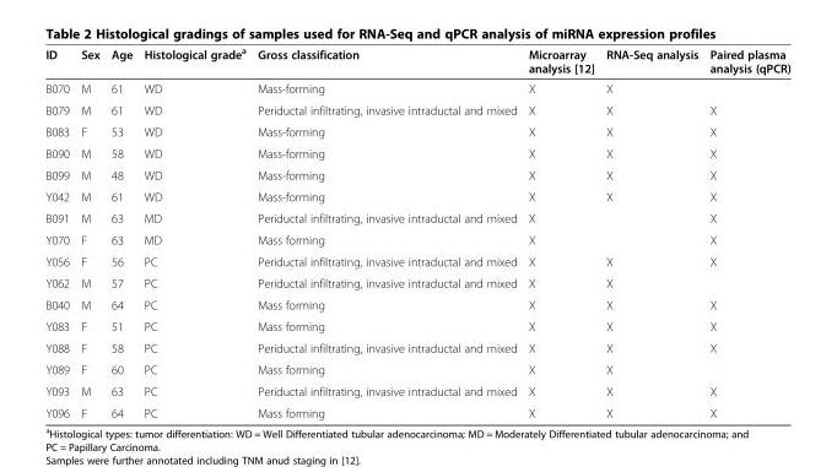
<table><thead><tr><td>ID</td><td>Sex</td><td>Age</td><td>Histological grade<sup>a</sup></td><td>Gross classification</td><td>Microarray analysis [12]</td><td>RNA-Seq analysis</td><td>Paired plasma analysis (qPCR)</td></tr></thead><tbody><tr><td>B070</td><td>M</td><td>61</td><td>WD</td><td>Mass-forming</td><td>X</td><td>X</td><td></td></tr><tr><td>B079</td><td>M</td><td>61</td><td>WD</td><td>Periductal infiltrating, invasive intraductal and mixed</td><td>X</td><td>X</td><td>X</td></tr><tr><td>B083</td><td>F</td><td>53</td><td>WD</td><td>Mass-forming</td><td>X</td><td>X</td><td>X</td></tr><tr><td>B090</td><td>M</td><td>58</td><td>WD</td><td>Mass-forming</td><td>X</td><td>X</td><td>X</td></tr><tr><td>B099</td><td>M</td><td>48</td><td>WD</td><td>Mass-forming</td><td>X</td><td>X</td><td>X</td></tr><tr><td>Y042</td><td>M</td><td>61</td><td>WD</td><td>Mass-forming</td><td>X</td><td>X</td><td>X</td></tr><tr><td>B091</td><td>M</td><td>63</td><td>MD</td><td>Periductal infiltrating, invasive intraductal and mixed</td><td>X</td><td></td><td>X</td></tr><tr><td>Y070</td><td>F</td><td>63</td><td>MD</td><td>Mass forming</td><td>X</td><td></td><td>X</td></tr><tr><td>Y056</td><td>F</td><td>56</td><td>PC</td><td>Periductal infiltrating, invasive intraductal and mixed</td><td>X</td><td>X</td><td>X</td></tr><tr><td>Y062</td><td>M</td><td>57</td><td>PC</td><td>Periductal infiltrating, invasive intraductal and mixed</td><td>X</td><td>X</td><td></td></tr><tr><td>B040</td><td>M</td><td>64</td><td>PC</td><td>Mass forming</td><td>X</td><td>X</td><td>X</td></tr><tr><td>Y083</td><td>F</td><td>51</td><td>PC</td><td>Mass forming</td><td>X</td><td>X</td><td>X</td></tr><tr><td>Y088</td><td>F</td><td>58</td><td>PC</td><td>Periductal infiltrating, invasive intraductal and mixed</td><td>X</td><td>X</td><td>X</td></tr><tr><td>Y089</td><td>F</td><td>60</td><td>PC</td><td>Mass forming</td><td>X</td><td>X</td><td></td></tr><tr><td>Y093</td><td>M</td><td>63</td><td>PC</td><td>Periductal infiltrating, invasive intraductal and mixed</td><td>X</td><td>X</td><td>X</td></tr><tr><td>Y096</td><td>F</td><td>64</td><td>PC</td><td>Mass forming</td><td>X</td><td>X</td><td>X</td></tr></tbody></table>